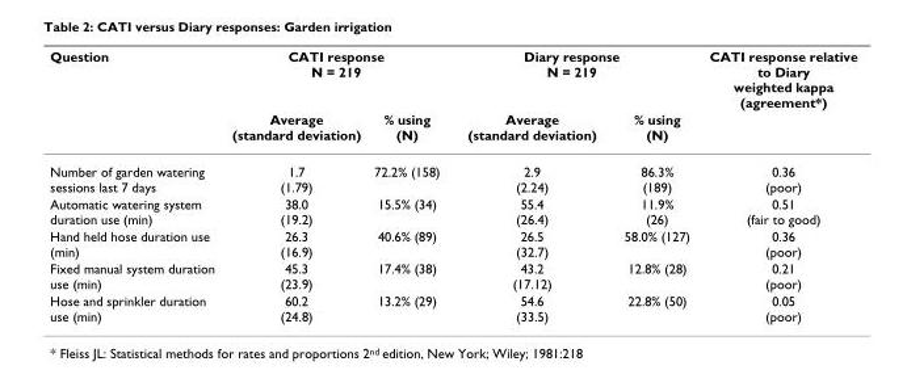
<table><thead><tr><td rowspan="2">Question</td><td colspan="2">CATI response N = 219</td><td colspan="2">Diary response N = 219</td><td rowspan="2">CATI response relative to Diary weighted kappa (agreement*)</td></tr><tr><td>Average (standard deviation)</td><td>% using (N)</td><td>Average (standard deviation)</td><td>% using (N)</td></tr></thead><tbody><tr><td>Number of garden watering sessions last 7 days</td><td>1.7 (1.79)</td><td>72.2% (158)</td><td>2.9 (2.24)</td><td>86.3% (189)</td><td>0.36 (poor)</td></tr><tr><td>Automatic watering system duration use (min)</td><td>38.0 (19.2)</td><td>15.5% (34)</td><td>55.4 (26.4)</td><td>11.9% (26)</td><td>0.51 (fair to good)</td></tr><tr><td>Hand held hose duration use (min)</td><td>26.3 (16.9)</td><td>40.6% (89)</td><td>26.5 (32.7)</td><td>58.0% (127)</td><td>0.36 (poor)</td></tr><tr><td>Fixed manual system duration use (min)</td><td>45.3 (23.9)</td><td>17.4% (38)</td><td>43.2 (17.12)</td><td>12.8% (28)</td><td>0.21 (poor)</td></tr><tr><td>Hose and sprinkler duration use (min)</td><td>60.2 (24.8)</td><td>13.2% (29)</td><td>54.6 (33.5)</td><td>22.8% (50)</td><td>0.05 (poor)</td></tr></tbody></table>